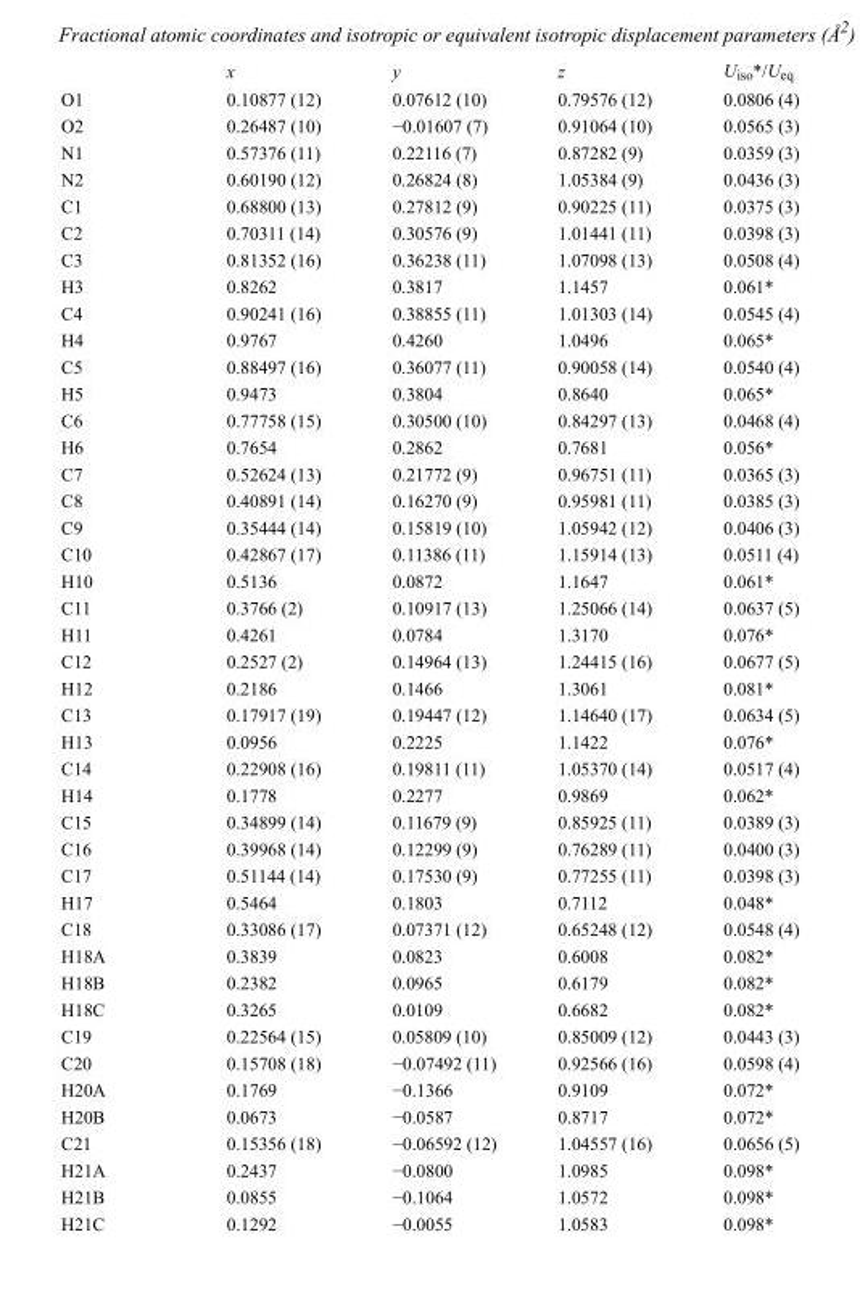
<table><thead><tr><td></td><td>x</td><td>y</td><td>z</td><td>U<sub>iso</sub>*/U<sub>eq</sub></td></tr></thead><tbody><tr><td>O1</td><td>0.10877 (12)</td><td>0.07612 (10)</td><td>0.79576 (12)</td><td>0.0806 (4)</td></tr><tr><td>O2</td><td>0.26487 (10)</td><td>−0.01607 (7)</td><td>0.91064 (10)</td><td>0.0565 (3)</td></tr><tr><td>N1</td><td>0.57376 (11)</td><td>0.22116 (7)</td><td>0.87282 (9)</td><td>0.0359 (3)</td></tr><tr><td>N2</td><td>0.60190 (12)</td><td>0.26824 (8)</td><td>1.05384 (9)</td><td>0.0436 (3)</td></tr><tr><td>C1</td><td>0.68800 (13)</td><td>0.27812 (9)</td><td>0.90225 (11)</td><td>0.0375 (3)</td></tr><tr><td>C2</td><td>0.70311 (14)</td><td>0.30576 (9)</td><td>1.01441 (11)</td><td>0.0398 (3)</td></tr><tr><td>C3</td><td>0.81352 (16)</td><td>0.36238 (11)</td><td>1.07098 (13)</td><td>0.0508 (4)</td></tr><tr><td>H3</td><td>0.8262</td><td>0.3817</td><td>1.1457</td><td>0.061*</td></tr><tr><td>C4</td><td>0.90241 (16)</td><td>0.38855 (11)</td><td>1.01303 (14)</td><td>0.0545 (4)</td></tr><tr><td>H4</td><td>0.9767</td><td>0.4260</td><td>1.0496</td><td>0.065*</td></tr><tr><td>C5</td><td>0.88497 (16)</td><td>0.36077 (11)</td><td>0.90058 (14)</td><td>0.0540 (4)</td></tr><tr><td>H5</td><td>0.9473</td><td>0.3804</td><td>0.8640</td><td>0.065*</td></tr><tr><td>C6</td><td>0.77758 (15)</td><td>0.30500 (10)</td><td>0.84297 (13)</td><td>0.0468 (4)</td></tr><tr><td>H6</td><td>0.7654</td><td>0.2862</td><td>0.7681</td><td>0.056*</td></tr><tr><td>C7</td><td>0.52624 (13)</td><td>0.21772 (9)</td><td>0.96751 (11)</td><td>0.0365 (3)</td></tr><tr><td>C8</td><td>0.40891 (14)</td><td>0.16270 (9)</td><td>0.95981 (11)</td><td>0.0385 (3)</td></tr><tr><td>C9</td><td>0.35444 (14)</td><td>0.15819 (10)</td><td>1.05942 (12)</td><td>0.0406 (3)</td></tr><tr><td>C10</td><td>0.42867 (17)</td><td>0.11386 (11)</td><td>1.15914 (13)</td><td>0.0511 (4)</td></tr><tr><td>H10</td><td>0.5136</td><td>0.0872</td><td>1.1647</td><td>0.061*</td></tr><tr><td>C11</td><td>0.3766 (2)</td><td>0.10917 (13)</td><td>1.25066 (14)</td><td>0.0637 (5)</td></tr><tr><td>H11</td><td>0.4261</td><td>0.0784</td><td>1.3170</td><td>0.076*</td></tr><tr><td>C12</td><td>0.2527 (2)</td><td>0.14964 (13)</td><td>1.24415 (16)</td><td>0.0677 (5)</td></tr><tr><td>H12</td><td>0.2186</td><td>0.1466</td><td>1.3061</td><td>0.081*</td></tr><tr><td>C13</td><td>0.17917 (19)</td><td>0.19447 (12)</td><td>1.14640 (17)</td><td>0.0634 (5)</td></tr><tr><td>H13</td><td>0.0956</td><td>0.2225</td><td>1.1422</td><td>0.076*</td></tr><tr><td>C14</td><td>0.22908 (16)</td><td>0.19811 (11)</td><td>1.05370 (14)</td><td>0.0517 (4)</td></tr><tr><td>H14</td><td>0.1778</td><td>0.2277</td><td>0.9869</td><td>0.062*</td></tr><tr><td>C15</td><td>0.34899 (14)</td><td>0.11679 (9)</td><td>0.85925 (11)</td><td>0.0389 (3)</td></tr><tr><td>C16</td><td>0.39968 (14)</td><td>0.12299 (9)</td><td>0.76289 (11)</td><td>0.0400 (3)</td></tr><tr><td>C17</td><td>0.51144 (14)</td><td>0.17530 (9)</td><td>0.77255 (11)</td><td>0.0398 (3)</td></tr><tr><td>H17</td><td>0.5464</td><td>0.1803</td><td>0.7112</td><td>0.048*</td></tr><tr><td>C18</td><td>0.33086 (17)</td><td>0.07371 (12)</td><td>0.65248 (12)</td><td>0.0548 (4)</td></tr><tr><td>H18A</td><td>0.3839</td><td>0.0823</td><td>0.6008</td><td>0.082*</td></tr><tr><td>H18B</td><td>0.2382</td><td>0.0965</td><td>0.6179</td><td>0.082*</td></tr><tr><td>H18C</td><td>0.3265</td><td>0.0109</td><td>0.6682</td><td>0.082*</td></tr><tr><td>C19</td><td>0.22564 (15)</td><td>0.05809 (10)</td><td>0.85009 (12)</td><td>0.0443 (3)</td></tr><tr><td>C20</td><td>0.15708 (18)</td><td>−0.07492 (11)</td><td>0.92566 (16)</td><td>0.0598 (4)</td></tr><tr><td>H20A</td><td>0.1769</td><td>−0.1366</td><td>0.9109</td><td>0.072*</td></tr><tr><td>H20B</td><td>0.0673</td><td>−0.0587</td><td>0.8717</td><td>0.072*</td></tr><tr><td>C21</td><td>0.15356 (18)</td><td>−0.06592 (12)</td><td>1.04557 (16)</td><td>0.0656 (5)</td></tr><tr><td>H21A</td><td>0.2437</td><td>−0.0800</td><td>1.0985</td><td>0.098*</td></tr><tr><td>H21B</td><td>0.0855</td><td>−0.1064</td><td>1.0572</td><td>0.098*</td></tr><tr><td>H21C</td><td>0.1292</td><td>−0.0055</td><td>1.0583</td><td>0.098*</td></tr></tbody></table>